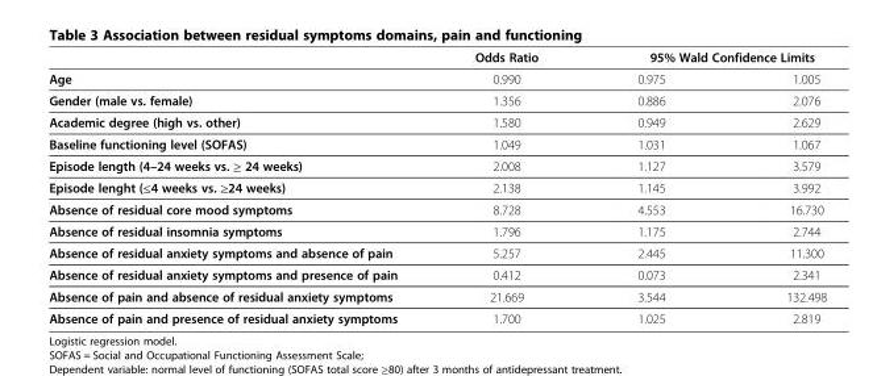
<table><thead><tr><td rowspan="2">Age</td><td rowspan="2">Odds Ratio 0.990</td><td colspan="2">95% Wald Confidence Limits</td></tr><tr><td>0.975</td><td>1.005</td></tr></thead><tbody><tr><td>Gender (male vs. female)</td><td>1.356</td><td>0.886</td><td>2.076</td></tr><tr><td>Academic degree (high vs. other)</td><td>1.580</td><td>0.949</td><td>2.629</td></tr><tr><td>Baseline functioning level (SOFAS)</td><td>1.049</td><td>1.031</td><td>1.067</td></tr><tr><td>Episode length (4–24 weeks vs. ≥ 24 weeks)</td><td>2.008</td><td>1.127</td><td>3.579</td></tr><tr><td>Episode lenght (≤4 weeks vs. ≥24 weeks)</td><td>2.138</td><td>1.145</td><td>3.992</td></tr><tr><td>Absence of residual core mood symptoms</td><td>8.728</td><td>4.553</td><td>16.730</td></tr><tr><td>Absence of residual insomnia symptoms</td><td>1.796</td><td>1.175</td><td>2.744</td></tr><tr><td>Absence of residual anxiety symptoms and absence of pain</td><td>5.257</td><td>2.445</td><td>11.300</td></tr><tr><td>Absence of residual anxiety symptoms and presence of pain</td><td>0.412</td><td>0.073</td><td>2.341</td></tr><tr><td>Absence of pain and absence of residual anxiety symptoms</td><td>21.669</td><td>3.544</td><td>132.498</td></tr><tr><td>Absence of pain and presence of residual anxiety symptoms</td><td>1.700</td><td>1.025</td><td>2.819</td></tr></tbody></table>